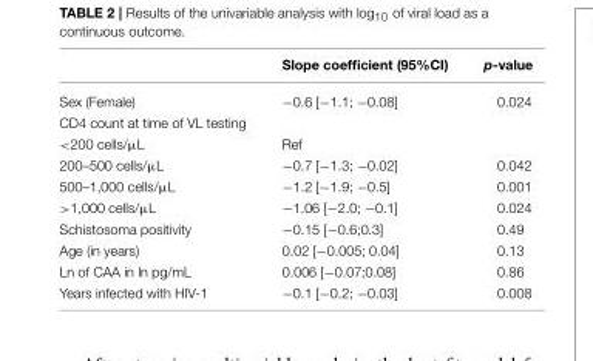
<table><thead><tr><td></td><td>Slope coefficient (95%CI)</td><td>p-value</td></tr></thead><tbody><tr><td>Sex (Female)</td><td>−0.6 [−1.1; −0.08]</td><td>0.024</td></tr><tr><td colspan="3">CD4 count at time of VL testing</td></tr><tr><td>&lt;200 cells/µL</td><td>Ref</td><td></td></tr><tr><td>200–500 cells/µL</td><td>−0.7 [−1.3; −0.02]</td><td>0.042</td></tr><tr><td>500–1,000 cells/µL</td><td>−1.2 [−1.9; −0.5]</td><td>0.001</td></tr><tr><td>&gt;1,000 cells/µL</td><td>−1.06 [−2.0; −0.1]</td><td>0.024</td></tr><tr><td>Schistosoma positivity</td><td>−0.15 [−0.6;0.3]</td><td>0.49</td></tr><tr><td>Age (in years)</td><td>0.02 [−0.005; 0.04]</td><td>0.13</td></tr><tr><td>Ln of CAA in ln pg/mL</td><td>0.006 [−0.07;0.08]</td><td>0.86</td></tr><tr><td>Years infected with HIV-1</td><td>−0.1 [−0.2; −0.03]</td><td>0.008</td></tr></tbody></table>